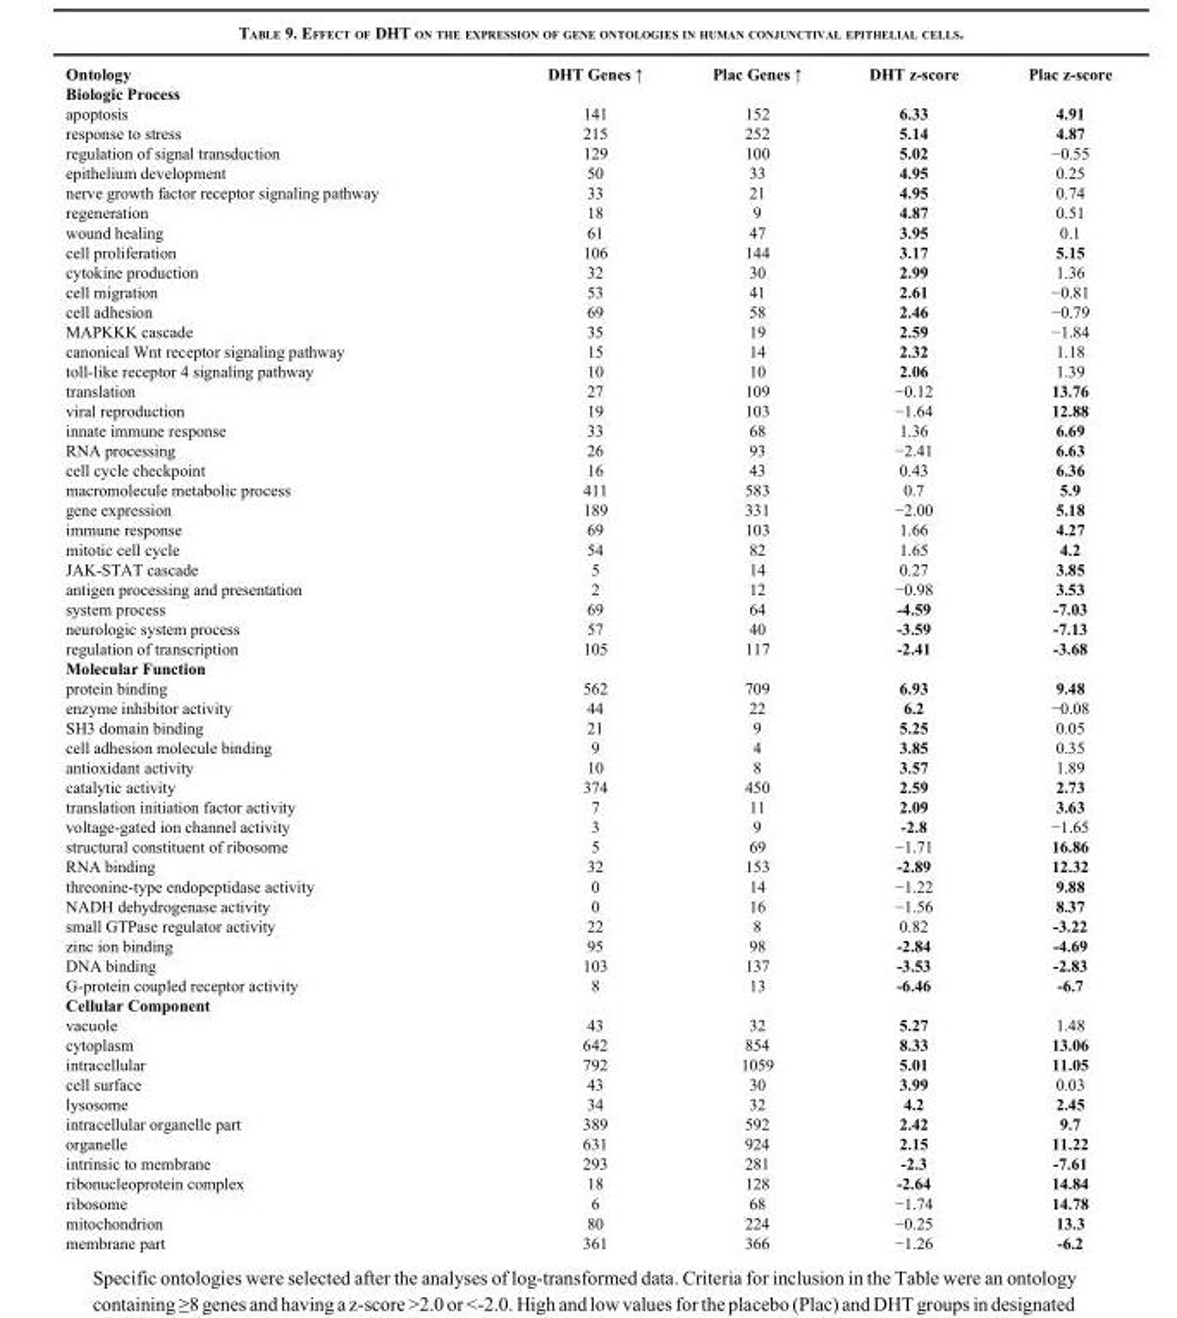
<table><thead><tr><td>Ontology</td><td>DHT Genes ↑</td><td>Plac Genes ↑</td><td>DHT z-score</td><td>Plac z-score</td></tr></thead><tbody><tr><td colspan="5">Biologic Process</td></tr><tr><td>apoptosis</td><td>141</td><td>152</td><td>6.33</td><td>4.91</td></tr><tr><td>response to stress</td><td>215</td><td>252</td><td>5.14</td><td>4.87</td></tr><tr><td>regulation of signal transduction</td><td>129</td><td>100</td><td>5.02</td><td>−0.55</td></tr><tr><td>epithelium development</td><td>50</td><td>33</td><td>4.95</td><td>0.25</td></tr><tr><td>nerve growth factor receptor signaling pathway</td><td>33</td><td>21</td><td>4.95</td><td>0.74</td></tr><tr><td>regeneration</td><td>18</td><td>9</td><td>4.87</td><td>0.51</td></tr><tr><td>wound healing</td><td>61</td><td>47</td><td>3.95</td><td>0.1</td></tr><tr><td>cell proliferation</td><td>106</td><td>144</td><td>3.17</td><td>5.15</td></tr><tr><td>cytokine production</td><td>32</td><td>30</td><td>2.99</td><td>1.36</td></tr><tr><td>cell migration</td><td>53</td><td>41</td><td>2.61</td><td>−0.81</td></tr><tr><td>cell adhesion</td><td>69</td><td>58</td><td>2.46</td><td>−0.79</td></tr><tr><td>MAPKKK cascade</td><td>35</td><td>19</td><td>2.59</td><td>−1.84</td></tr><tr><td>canonical Wnt receptor signaling pathway</td><td>15</td><td>14</td><td>2.32</td><td>1.18</td></tr><tr><td>toll-like receptor 4 signaling pathway</td><td>10</td><td>10</td><td>2.06</td><td>1.39</td></tr><tr><td>translation</td><td>27</td><td>109</td><td>−0.12</td><td>13.76</td></tr><tr><td>viral reproduction</td><td>19</td><td>103</td><td>−1.64</td><td>12.88</td></tr><tr><td>innate immune response</td><td>33</td><td>68</td><td>1.36</td><td>6.69</td></tr><tr><td>RNA processing</td><td>26</td><td>93</td><td>−2.41</td><td>6.63</td></tr><tr><td>cell cycle checkpoint</td><td>16</td><td>43</td><td>0.43</td><td>6.36</td></tr><tr><td>macromolecule metabolic process</td><td>411</td><td>583</td><td>0.7</td><td>5.9</td></tr><tr><td>gene expression</td><td>189</td><td>331</td><td>−2.00</td><td>5.18</td></tr><tr><td>immune response</td><td>69</td><td>103</td><td>1.66</td><td>4.27</td></tr><tr><td>mitotic cell cycle</td><td>54</td><td>82</td><td>1.65</td><td>4.2</td></tr><tr><td>JAK-STAT cascade</td><td>5</td><td>14</td><td>0.27</td><td>3.85</td></tr><tr><td>antigen processing and presentation</td><td>2</td><td>12</td><td>−0.98</td><td>3.53</td></tr><tr><td>system process</td><td>69</td><td>64</td><td>-4.59</td><td>-7.03</td></tr><tr><td>neurologic system process</td><td>57</td><td>40</td><td>-3.59</td><td>-7.13</td></tr><tr><td>regulation of transcription</td><td>105</td><td>117</td><td>-2.41</td><td>-3.68</td></tr><tr><td colspan="5">Molecular Function</td></tr><tr><td>protein binding</td><td>562</td><td>709</td><td>6.93</td><td>9.48</td></tr><tr><td>enzyme inhibitor activity</td><td>44</td><td>22</td><td>6.2</td><td>−0.08</td></tr><tr><td>SH3 domain binding</td><td>21</td><td>9</td><td>5.25</td><td>0.05</td></tr><tr><td>cell adhesion molecule binding</td><td>9</td><td>4</td><td>3.85</td><td>0.35</td></tr><tr><td>antioxidant activity</td><td>10</td><td>8</td><td>3.57</td><td>1.89</td></tr><tr><td>catalytic activity</td><td>374</td><td>450</td><td>2.59</td><td>2.73</td></tr><tr><td>translation initiation factor activity</td><td>7</td><td>11</td><td>2.09</td><td>3.63</td></tr><tr><td>voltage-gated ion channel activity</td><td>3</td><td>9</td><td>-2.8</td><td>−1.65</td></tr><tr><td>structural constituent of ribosome</td><td>5</td><td>69</td><td>−1.71</td><td>16.86</td></tr><tr><td>RNA binding</td><td>32</td><td>153</td><td>-2.89</td><td>12.32</td></tr><tr><td>threonine-type endopeptidase activity</td><td>0</td><td>14</td><td>−1.22</td><td>9.88</td></tr><tr><td>NADH dehydrogenase activity</td><td>0</td><td>16</td><td>−1.56</td><td>8.37</td></tr><tr><td>small GTPase regulator activity</td><td>22</td><td>8</td><td>0.82</td><td>-3.22</td></tr><tr><td>zinc ion binding</td><td>95</td><td>98</td><td>-2.84</td><td>-4.69</td></tr><tr><td>DNA binding</td><td>103</td><td>137</td><td>-3.53</td><td>-2.83</td></tr><tr><td>G-protein coupled receptor activity</td><td>8</td><td>13</td><td>-6.46</td><td>-6.7</td></tr><tr><td colspan="5">Cellular Component</td></tr><tr><td>vacuole</td><td>43</td><td>32</td><td>5.27</td><td>1.48</td></tr><tr><td>cytoplasm</td><td>642</td><td>854</td><td>8.33</td><td>13.06</td></tr><tr><td>intracellular</td><td>792</td><td>1059</td><td>5.01</td><td>11.05</td></tr><tr><td>cell surface</td><td>43</td><td>30</td><td>3.99</td><td>0.03</td></tr><tr><td>lysosome</td><td>34</td><td>32</td><td>4.2</td><td>2.45</td></tr><tr><td>intracellular organelle part</td><td>389</td><td>592</td><td>2.42</td><td>9.7</td></tr><tr><td>organelle</td><td>631</td><td>924</td><td>2.15</td><td>11.22</td></tr><tr><td>intrinsic to membrane</td><td>293</td><td>281</td><td>-2.3</td><td>-7.61</td></tr><tr><td>ribonucleoprotein complex</td><td>18</td><td>128</td><td>-2.64</td><td>14.84</td></tr><tr><td>ribosome</td><td>6</td><td>68</td><td>−1.74</td><td>14.78</td></tr><tr><td>mitochondrion</td><td>80</td><td>224</td><td>−0.25</td><td>13.3</td></tr><tr><td>membrane part</td><td>361</td><td>366</td><td>−1.26</td><td>-6.2</td></tr></tbody></table>